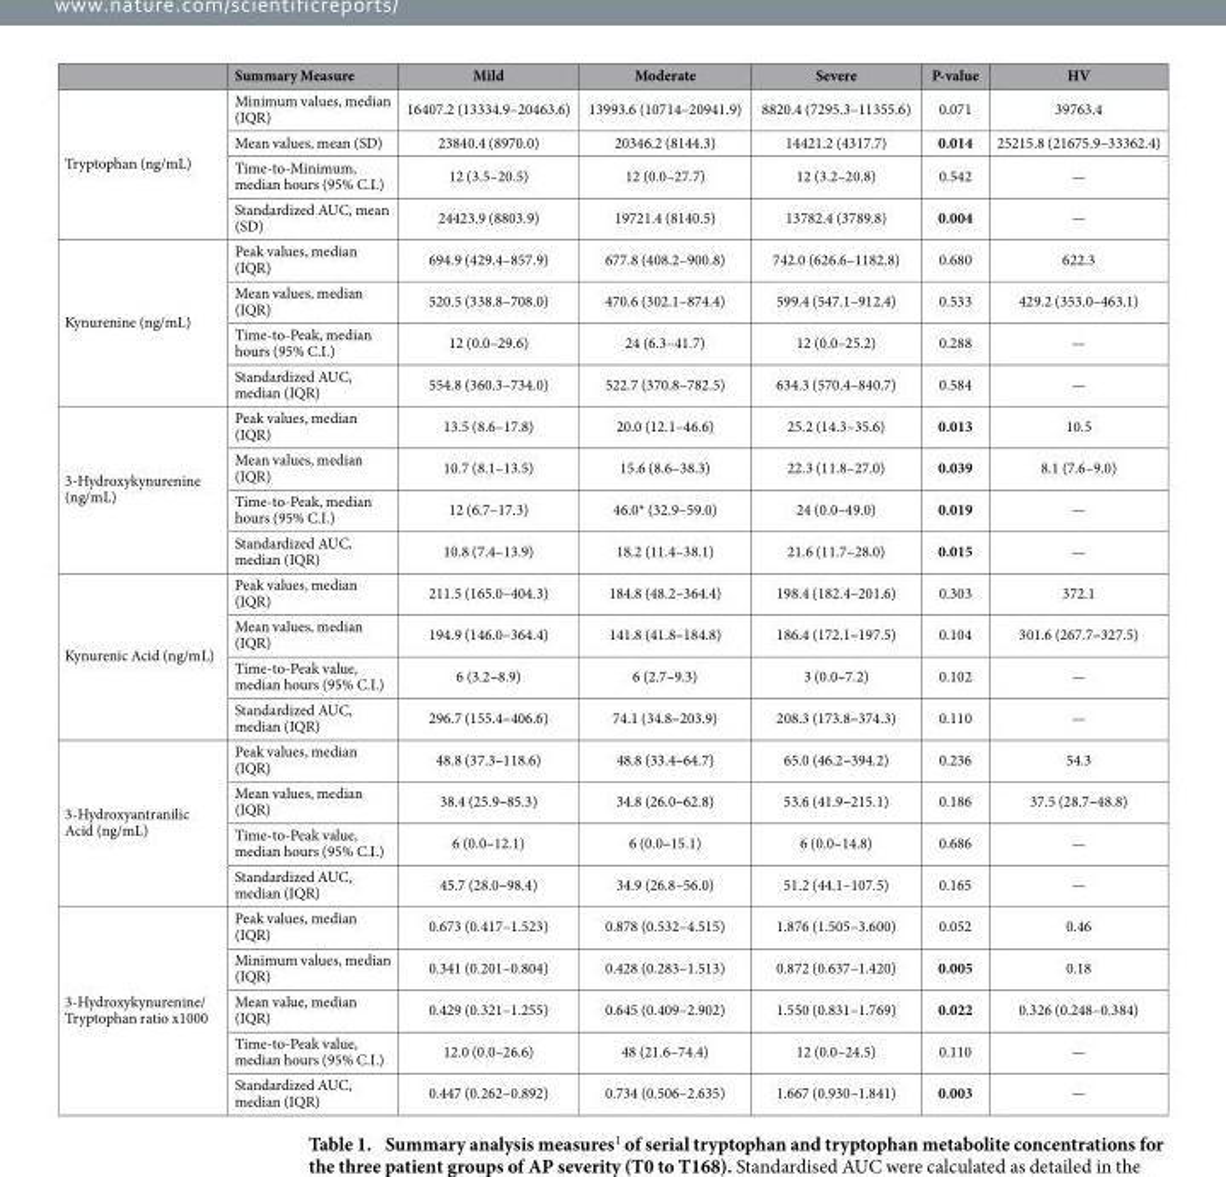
<table><thead><tr><td></td><td>Summary Measure</td><td>Mild</td><td>Moderate</td><td>Severe</td><td>P-value</td><td>HV</td></tr></thead><tbody><tr><td rowspan="4">Tryptophan (ng/mL)</td><td>Minimum values, median (IQR)</td><td>16407.2 (13334.9–20463.6)</td><td>13993.6 (10714–20941.9)</td><td>8820.4 (7295.3–11355.6)</td><td>0.071</td><td>39763.4</td></tr><tr><td>Mean values, mean (SD)</td><td>23840.4 (8970.0)</td><td>20346.2 (8144.3)</td><td>14421.2 (4317.7)</td><td>0.014</td><td>25215.8 (21675.9–33362.4)</td></tr><tr><td>Time-to-Minimum, median hours (95% C.I.)</td><td>12 (3.5–20.5)</td><td>12 (0.0–27.7)</td><td>12 (3.2–20.8)</td><td>0.542</td><td>—</td></tr><tr><td>Standardized AUC, mean (SD)</td><td>24423.9 (8803.9)</td><td>19721.4 (8140.5)</td><td>13782.4 (3789.8)</td><td>0.004</td><td>—</td></tr><tr><td rowspan="4">Kynurenine (ng/mL)</td><td>Peak values, median (IQR)</td><td>694.9 (429.4–857.9)</td><td>677.8 (408.2–900.8)</td><td>742.0 (626.6–1182.8)</td><td>0.680</td><td>622.3</td></tr><tr><td>Mean values, median (IQR)</td><td>520.5 (338.8–708.0)</td><td>470.6 (302.1–874.4)</td><td>599.4 (547.1–912.4)</td><td>0.533</td><td>429.2 (353.0–463.1)</td></tr><tr><td>Time-to-Peak, median hours (95% C.I.)</td><td>12 (0.0–29.6)</td><td>24 (6.3–41.7)</td><td>12 (0.0–25.2)</td><td>0.288</td><td>—</td></tr><tr><td>Standardized AUC, median (IQR)</td><td>554.8 (360.3–734.0)</td><td>522.7 (370.8–782.5)</td><td>634.3 (570.4–840.7)</td><td>0.584</td><td>—</td></tr><tr><td rowspan="4">3-Hydroxykynurenine (ng/mL)</td><td>Peak values, median (IQR)</td><td>13.5 (8.6–17.8)</td><td>20.0 (12.1–46.6)</td><td>25.2 (14.3–35.6)</td><td>0.013</td><td>10.5</td></tr><tr><td>Mean values, median (IQR)</td><td>10.7 (8.1–13.5)</td><td>15.6 (8.6–38.3)</td><td>22.3 (11.8–27.0)</td><td>0.039</td><td>8.1 (7.6–9.0)</td></tr><tr><td>Time-to-Peak, median hours (95% C.I.)</td><td>12 (6.7–17.3)</td><td>46.0* (32.9–59.0)</td><td>24 (0.0–49.0)</td><td>0.019</td><td>—</td></tr><tr><td>Standardized AUC, median (IQR)</td><td>10.8 (7.4–13.9)</td><td>18.2 (11.4–38.1)</td><td>21.6 (11.7–28.0)</td><td>0.015</td><td>—</td></tr><tr><td rowspan="4">Kynurenic Acid (ng/mL)</td><td>Peak values, median (IQR)</td><td>211.5 (165.0–404.3)</td><td>184.8 (48.2–364.4)</td><td>198.4 (182.4–201.6)</td><td>0.303</td><td>372.1</td></tr><tr><td>Mean values, median (IQR)</td><td>194.9 (146.0–364.4)</td><td>141.8 (41.8–184.8)</td><td>186.4 (172.1–197.5)</td><td>0.104</td><td>301.6 (267.7–327.5)</td></tr><tr><td>Time-to-Peak value, median hours (95% C.I.)</td><td>6 (3.2–8.9)</td><td>6 (2.7–9.3)</td><td>3 (0.0–7.2)</td><td>0.102</td><td>—</td></tr><tr><td>Standardized AUC, median (IQR)</td><td>296.7 (155.4–406.6)</td><td>74.1 (34.8–203.9)</td><td>208.3 (173.8–374.3)</td><td>0.110</td><td>—</td></tr><tr><td rowspan="4">3-Hydroxyantranilic Acid (ng/mL)</td><td>Peak values, median (IQR)</td><td>48.8 (37.3–118.6)</td><td>48.8 (33.4–64.7)</td><td>65.0 (46.2–394.2)</td><td>0.236</td><td>54.3</td></tr><tr><td>Mean values, median (IQR)</td><td>38.4 (25.9–85.3)</td><td>34.8 (26.0–62.8)</td><td>53.6 (41.9–215.1)</td><td>0.186</td><td>37.5 (28.7–48.8)</td></tr><tr><td>Time-to-Peak value, median hours (95% C.I.)</td><td>6 (0.0–12.1)</td><td>6 (0.0–15.1)</td><td>6 (0.0–14.8)</td><td>0.686</td><td>—</td></tr><tr><td>Standardized AUC, median (IQR)</td><td>45.7 (28.0–98.4)</td><td>34.9 (26.8–56.0)</td><td>51.2 (44.1–107.5)</td><td>0.165</td><td>—</td></tr><tr><td rowspan="5">3-Hydroxykynurenine/ Tryptophan ratio x1000</td><td>Peak values, median (IQR)</td><td>0.673 (0.417–1.523)</td><td>0.878 (0.532–4.515)</td><td>1.876 (1.505–3.600)</td><td>0.052</td><td>0.46</td></tr><tr><td>Minimum values, median (IQR)</td><td>0.341 (0.201–0.804)</td><td>0.428 (0.283–1.513)</td><td>0.872 (0.637–1.420)</td><td>0.005</td><td>0.18</td></tr><tr><td>Mean value, median (IQR)</td><td>0.429 (0.321–1.255)</td><td>0.645 (0.409–2.902)</td><td>1.550 (0.831–1.769)</td><td>0.022</td><td>0.326 (0.248–0.384)</td></tr><tr><td>Time-to-Peak value, median hours (95% C.I.)</td><td>12.0 (0.0–26.6)</td><td>48 (21.6–74.4)</td><td>12 (0.0–24.5)</td><td>0.110</td><td>—</td></tr><tr><td>Standardized AUC, median (IQR)</td><td>0.447 (0.262–0.892)</td><td>0.734 (0.506–2.635)</td><td>1.667 (0.930–1.841)</td><td>0.003</td><td>—</td></tr></tbody></table>